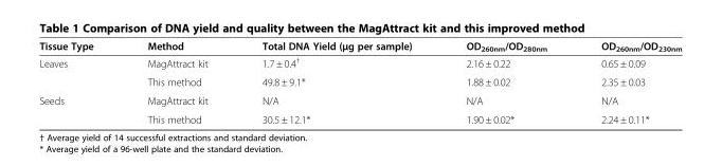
<table><thead><tr><td>Tissue Type</td><td>Method</td><td>Total DNA Yield (μg per sample)</td><td>OD<sub>260nm</sub>/OD<sub>280nm</sub></td><td>OD<sub>260nm</sub>/OD<sub>230nm</sub></td></tr></thead><tbody><tr><td rowspan="2">Leaves</td><td>MagAttract kit</td><td>1.7 ± 0.4<sup>†</sup></td><td>2.16 ± 0.22</td><td>0.65 ± 0.09</td></tr><tr><td>This method</td><td>49.8 ± 9.1*</td><td>1.88 ± 0.02</td><td>2.35 ± 0.03</td></tr><tr><td rowspan="2">Seeds</td><td>MagAttract kit</td><td>N/A</td><td>N/A</td><td>N/A</td></tr><tr><td>This method</td><td>30.5 ± 12.1*</td><td>1.90 ± 0.02*</td><td>2.24 ± 0.11*</td></tr></tbody></table>